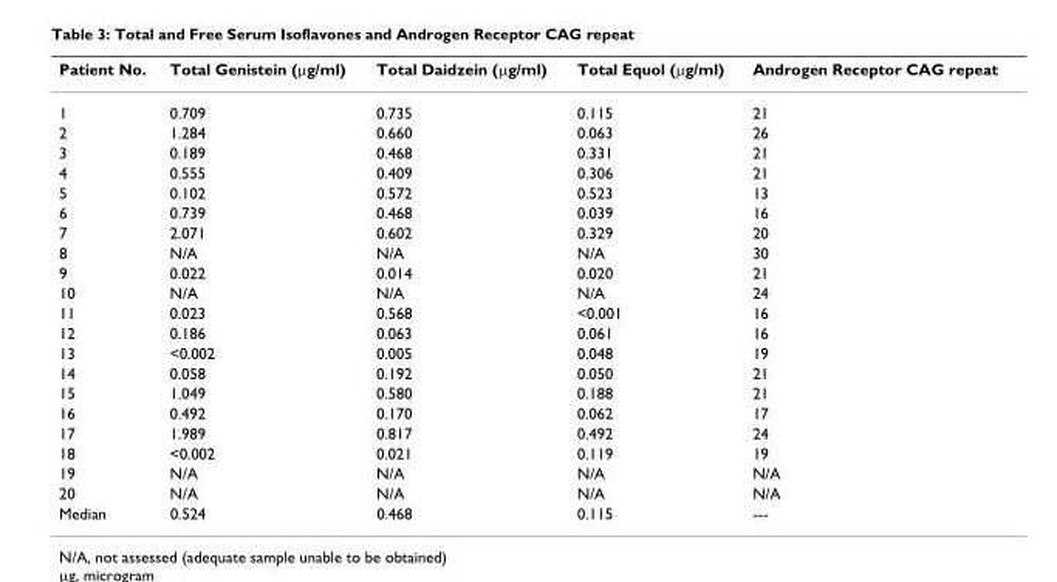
<table><thead><tr><td>Patient No.</td><td>Total Genistein (μg/ml)</td><td>Total Daidzein (μg/ml)</td><td>Total Equol (μg/ml)</td><td>Androgen Receptor CAG repeat</td></tr></thead><tbody><tr><td>1</td><td>0.709</td><td>0.735</td><td>0.115</td><td>21</td></tr><tr><td>2</td><td>1.284</td><td>0.660</td><td>0.063</td><td>26</td></tr><tr><td>3</td><td>0.189</td><td>0.468</td><td>0.331</td><td>21</td></tr><tr><td>4</td><td>0.555</td><td>0.409</td><td>0.306</td><td>21</td></tr><tr><td>5</td><td>0.102</td><td>0.572</td><td>0.523</td><td>13</td></tr><tr><td>6</td><td>0.739</td><td>0.468</td><td>0.039</td><td>16</td></tr><tr><td>7</td><td>2.071</td><td>0.602</td><td>0.329</td><td>20</td></tr><tr><td>8</td><td>N/A</td><td>N/A</td><td>N/A</td><td>30</td></tr><tr><td>9</td><td>0.022</td><td>0.014</td><td>0.020</td><td>21</td></tr><tr><td>10</td><td>N/A</td><td>N/A</td><td>N/A</td><td>24</td></tr><tr><td>11</td><td>0.023</td><td>0.568</td><td>&lt;0.001</td><td>16</td></tr><tr><td>12</td><td>0.186</td><td>0.063</td><td>0.061</td><td>16</td></tr><tr><td>13</td><td>&lt;0.002</td><td>0.005</td><td>0.048</td><td>19</td></tr><tr><td>14</td><td>0.058</td><td>0.192</td><td>0.050</td><td>21</td></tr><tr><td>15</td><td>1.049</td><td>0.580</td><td>0.188</td><td>21</td></tr><tr><td>16</td><td>0.492</td><td>0.170</td><td>0.062</td><td>17</td></tr><tr><td>17</td><td>1.989</td><td>0.817</td><td>0.492</td><td>24</td></tr><tr><td>18</td><td>&lt;0.002</td><td>0.021</td><td>0.119</td><td>19</td></tr><tr><td>19</td><td>N/A</td><td>N/A</td><td>N/A</td><td>N/A</td></tr><tr><td>20</td><td>N/A</td><td>N/A</td><td>N/A</td><td>N/A</td></tr><tr><td>Median</td><td>0.524</td><td>0.468</td><td>0.115</td><td>---</td></tr></tbody></table>